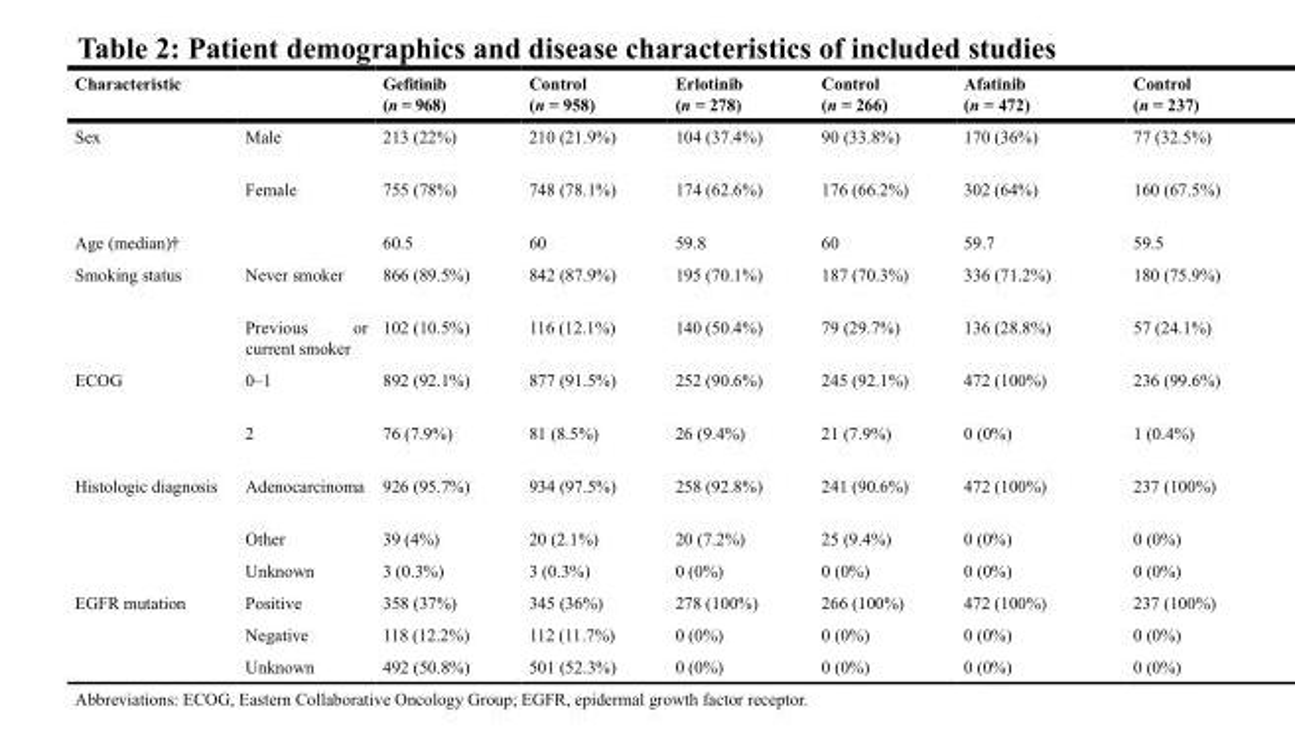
<table><thead><tr><td>Characteristic</td><td></td><td>Gefitinib (n = 968)</td><td>Control (n = 958)</td><td>Erlotinib (n = 278)</td><td>Control (n = 266)</td><td>Afatinib (n = 472)</td><td>Control (n = 237)</td></tr></thead><tbody><tr><td rowspan="2">Sex</td><td>Male</td><td>213 (22%)</td><td>210 (21.9%)</td><td>104 (37.4%)</td><td>90 (33.8%)</td><td>170 (36%)</td><td>77 (32.5%)</td></tr><tr><td>Female</td><td>755 (78%)</td><td>748 (78.1%)</td><td>174 (62.6%)</td><td>176 (66.2%)</td><td>302 (64%)</td><td>160 (67.5%)</td></tr><tr><td>Age (median)†</td><td></td><td>60.5</td><td>60</td><td>59.8</td><td>60</td><td>59.7</td><td>59.5</td></tr><tr><td rowspan="2">Smoking status</td><td>Never smoker</td><td>866 (89.5%)</td><td>842 (87.9%)</td><td>195 (70.1%)</td><td>187 (70.3%)</td><td>336 (71.2%)</td><td>180 (75.9%)</td></tr><tr><td>Previous or current smoker</td><td>102 (10.5%)</td><td>116 (12.1%)</td><td>140 (50.4%)</td><td>79 (29.7%)</td><td>136 (28.8%)</td><td>57 (24.1%)</td></tr><tr><td rowspan="2">ECOG</td><td>0–1</td><td>892 (92.1%)</td><td>877 (91.5%)</td><td>252 (90.6%)</td><td>245 (92.1%)</td><td>472 (100%)</td><td>236 (99.6%)</td></tr><tr><td>2</td><td>76 (7.9%)</td><td>81 (8.5%)</td><td>26 (9.4%)</td><td>21 (7.9%)</td><td>0 (0%)</td><td>1 (0.4%)</td></tr><tr><td rowspan="3">Histologic diagnosis</td><td>Adenocarcinoma</td><td>926 (95.7%)</td><td>934 (97.5%)</td><td>258 (92.8%)</td><td>241 (90.6%)</td><td>472 (100%)</td><td>237 (100%)</td></tr><tr><td>Other</td><td>39 (4%)</td><td>20 (2.1%)</td><td>20 (7.2%)</td><td>25 (9.4%)</td><td>0 (0%)</td><td>0 (0%)</td></tr><tr><td>Unknown</td><td>3 (0.3%)</td><td>3 (0.3%)</td><td>0 (0%)</td><td>0 (0%)</td><td>0 (0%)</td><td>0 (0%)</td></tr><tr><td rowspan="3">EGFR mutation</td><td>Positive</td><td>358 (37%)</td><td>345 (36%)</td><td>278 (100%)</td><td>266 (100%)</td><td>472 (100%)</td><td>237 (100%)</td></tr><tr><td>Negative</td><td>118 (12.2%)</td><td>112 (11.7%)</td><td>0 (0%)</td><td>0 (0%)</td><td>0 (0%)</td><td>0 (0%)</td></tr><tr><td>Unknown</td><td>492 (50.8%)</td><td>501 (52.3%)</td><td>0 (0%)</td><td>0 (0%)</td><td>0 (0%)</td><td>0 (0%)</td></tr></tbody></table>